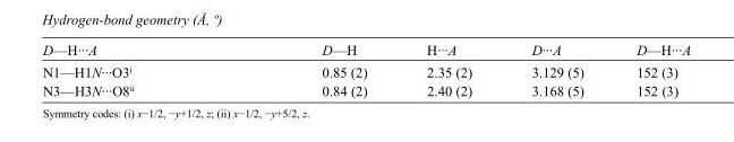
<table><tbody><tr><td>D—H···A</td><td>D—H</td><td>H···A</td><td>D···A</td><td>D—H···A</td></tr><tr><td>N1—H1N···O3<sup>i</sup></td><td>0.85 (2)</td><td>2.35 (2)</td><td>3.129 (5)</td><td>152 (3)</td></tr><tr><td>N3—H3N···O8<sup>ii</sup></td><td>0.84 (2)</td><td>2.40 (2)</td><td>3.168 (5)</td><td>152 (3)</td></tr></tbody></table>